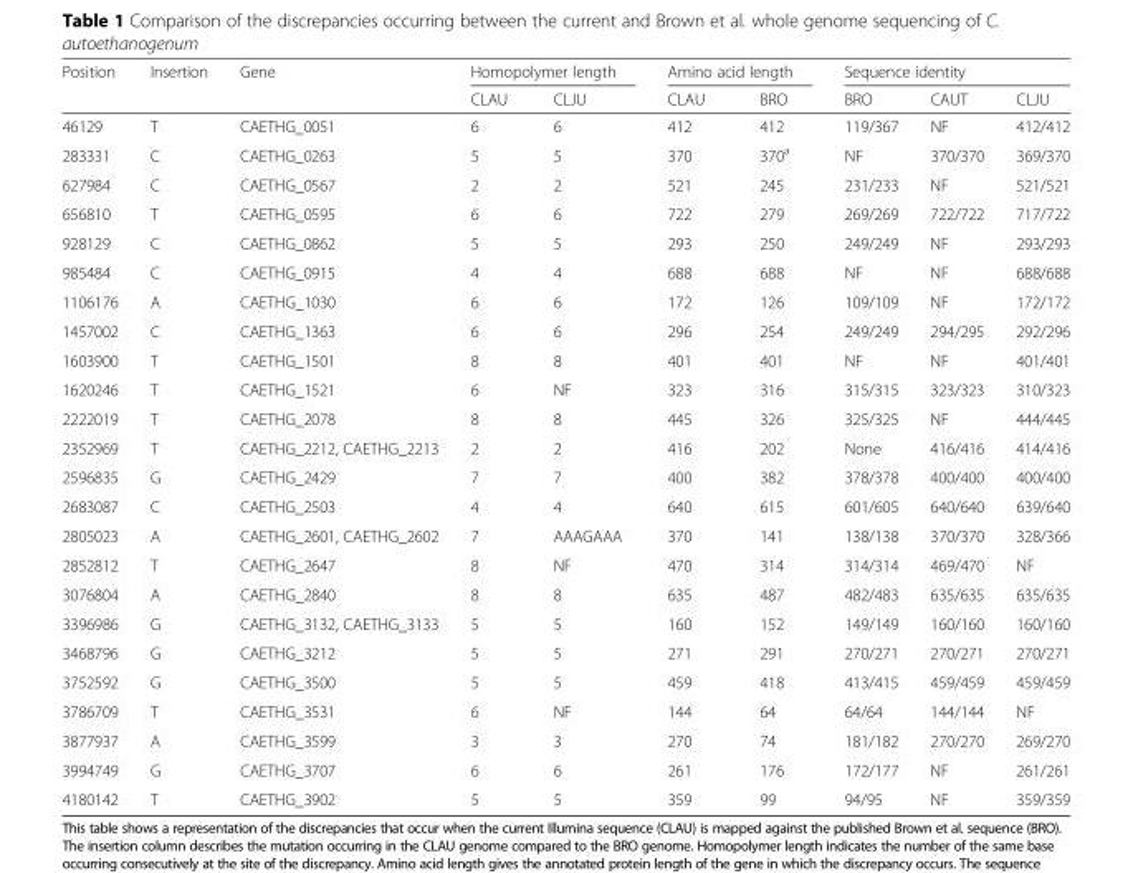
<table><thead><tr><td rowspan="2">Position</td><td rowspan="2">Insertion</td><td rowspan="2">Gene</td><td colspan="2">Homopolymer length</td><td colspan="2">Amino acid length</td><td colspan="3">Sequence identity</td></tr><tr><td>CLAU</td><td>CLJU</td><td>CLAU</td><td>BRO</td><td>BRO</td><td>CAUT</td><td>CLJU</td></tr></thead><tbody><tr><td>46129</td><td>T</td><td>CAETHG_0051</td><td>6</td><td>6</td><td>412</td><td>412</td><td>119/367</td><td>NF</td><td>412/412</td></tr><tr><td>283331</td><td>C</td><td>CAETHG_0263</td><td>5</td><td>5</td><td>370</td><td>370<sup>a</sup></td><td>NF</td><td>370/370</td><td>369/370</td></tr><tr><td>627984</td><td>C</td><td>CAETHG_0567</td><td>2</td><td>2</td><td>521</td><td>245</td><td>231/233</td><td>NF</td><td>521/521</td></tr><tr><td>656810</td><td>T</td><td>CAETHG_0595</td><td>6</td><td>6</td><td>722</td><td>279</td><td>269/269</td><td>722/722</td><td>717/722</td></tr><tr><td>928129</td><td>C</td><td>CAETHG_0862</td><td>5</td><td>5</td><td>293</td><td>250</td><td>249/249</td><td>NF</td><td>293/293</td></tr><tr><td>985484</td><td>C</td><td>CAETHG_0915</td><td>4</td><td>4</td><td>688</td><td>688</td><td>NF</td><td>NF</td><td>688/688</td></tr><tr><td>1106176</td><td>A</td><td>CAETHG_1030</td><td>6</td><td>6</td><td>172</td><td>126</td><td>109/109</td><td>NF</td><td>172/172</td></tr><tr><td>1457002</td><td>C</td><td>CAETHG_1363</td><td>6</td><td>6</td><td>296</td><td>254</td><td>249/249</td><td>294/295</td><td>292/296</td></tr><tr><td>1603900</td><td>T</td><td>CAETHG_1501</td><td>8</td><td>8</td><td>401</td><td>401</td><td>NF</td><td>NF</td><td>401/401</td></tr><tr><td>1620246</td><td>T</td><td>CAETHG_1521</td><td>6</td><td>NF</td><td>323</td><td>316</td><td>315/315</td><td>323/323</td><td>310/323</td></tr><tr><td>2222019</td><td>T</td><td>CAETHG_2078</td><td>8</td><td>8</td><td>445</td><td>326</td><td>325/325</td><td>NF</td><td>444/445</td></tr><tr><td>2352969</td><td>T</td><td>CAETHG_2212, CAETHG_2213</td><td>2</td><td>2</td><td>416</td><td>202</td><td>None</td><td>416/416</td><td>414/416</td></tr><tr><td>2596835</td><td>G</td><td>CAETHG_2429</td><td>7</td><td>7</td><td>400</td><td>382</td><td>378/378</td><td>400/400</td><td>400/400</td></tr><tr><td>2683087</td><td>C</td><td>CAETHG_2503</td><td>4</td><td>4</td><td>640</td><td>615</td><td>601/605</td><td>640/640</td><td>639/640</td></tr><tr><td>2805023</td><td>A</td><td>CAETHG_2601, CAETHG_2602</td><td>7</td><td>AAAGAAA</td><td>370</td><td>141</td><td>138/138</td><td>370/370</td><td>328/366</td></tr><tr><td>2852812</td><td>T</td><td>CAETHG_2647</td><td>8</td><td>NF</td><td>470</td><td>314</td><td>314/314</td><td>469/470</td><td>NF</td></tr><tr><td>3076804</td><td>A</td><td>CAETHG_2840</td><td>8</td><td>8</td><td>635</td><td>487</td><td>482/483</td><td>635/635</td><td>635/635</td></tr><tr><td>3396986</td><td>G</td><td>CAETHG_3132, CAETHG_3133</td><td>5</td><td>5</td><td>160</td><td>152</td><td>149/149</td><td>160/160</td><td>160/160</td></tr><tr><td>3468796</td><td>G</td><td>CAETHG_3212</td><td>5</td><td>5</td><td>271</td><td>291</td><td>270/271</td><td>270/271</td><td>270/271</td></tr><tr><td>3752592</td><td>G</td><td>CAETHG_3500</td><td>5</td><td>5</td><td>459</td><td>418</td><td>413/415</td><td>459/459</td><td>459/459</td></tr><tr><td>3786709</td><td>T</td><td>CAETHG_3531</td><td>6</td><td>NF</td><td>144</td><td>64</td><td>64/64</td><td>144/144</td><td>NF</td></tr><tr><td>3877937</td><td>A</td><td>CAETHG_3599</td><td>3</td><td>3</td><td>270</td><td>74</td><td>181/182</td><td>270/270</td><td>269/270</td></tr><tr><td>3994749</td><td>G</td><td>CAETHG_3707</td><td>6</td><td>6</td><td>261</td><td>176</td><td>172/177</td><td>NF</td><td>261/261</td></tr><tr><td>4180142</td><td>T</td><td>CAETHG_3902</td><td>5</td><td>5</td><td>359</td><td>99</td><td>94/95</td><td>NF</td><td>359/359</td></tr></tbody></table>